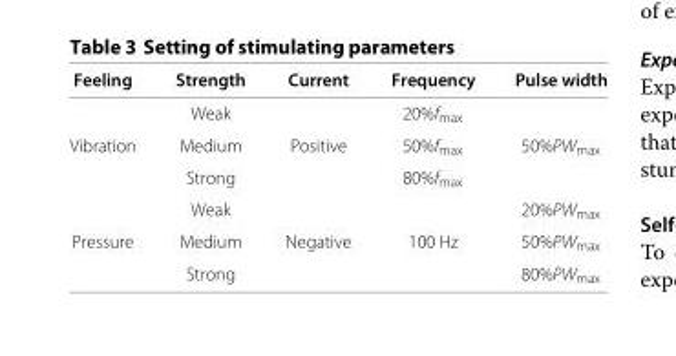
<table><thead><tr><td>Feeling</td><td>Strength</td><td>Current</td><td>Frequency</td><td>Pulse width</td></tr></thead><tbody><tr><td></td><td>Weak</td><td></td><td>20%f<sub>max</sub></td><td></td></tr><tr><td rowspan="3">Vibration</td><td>Medium</td><td>Positive</td><td>50%f<sub>max</sub></td><td>50%PW<sub>max</sub></td></tr><tr><td>Strong</td><td></td><td>80%f<sub>max</sub></td><td></td></tr><tr><td>Weak</td><td></td><td></td><td>20%PW<sub>max</sub></td></tr><tr><td rowspan="2">Pressure</td><td>Medium</td><td>Negative</td><td>100 Hz</td><td>50%PW<sub>max</sub></td></tr><tr><td>Strong</td><td></td><td></td><td>80%PW<sub>max</sub></td></tr></tbody></table>